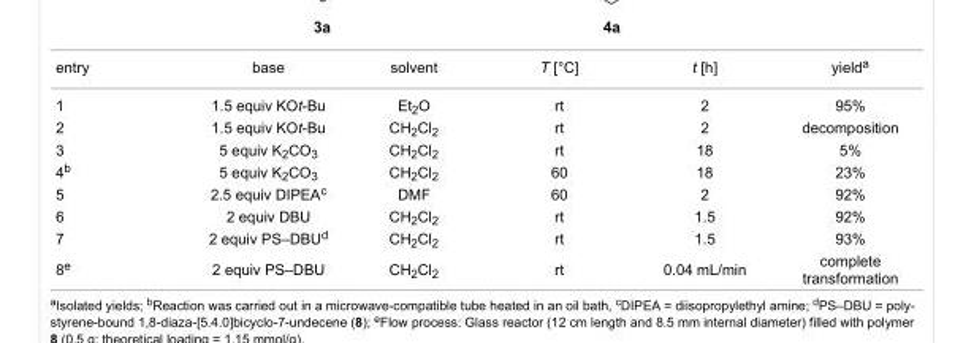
<table><tbody><tr><td>entry</td><td>base</td><td>solvent</td><td>T [°C]</td><td>t [h]</td><td>yield<sup>a</sup></td></tr><tr><td>1</td><td>1.5 equiv KOt-Bu</td><td>Et<sub>2</sub>O</td><td>rt</td><td>2</td><td>95%</td></tr><tr><td>2</td><td>1.5 equiv KOt-Bu</td><td>CH<sub>2</sub>Cl<sub>2</sub></td><td>rt</td><td>2</td><td>decomposition</td></tr><tr><td>3</td><td>5 equiv K<sub>2</sub>CO<sub>3</sub></td><td>CH<sub>2</sub>Cl<sub>2</sub></td><td>rt</td><td>18</td><td>5%</td></tr><tr><td>4<sup>b</sup></td><td>5 equiv K<sub>2</sub>CO<sub>3</sub></td><td>CH<sub>2</sub>Cl<sub>2</sub></td><td>60</td><td>18</td><td>23%</td></tr><tr><td>5</td><td>2.5 equiv DIPEA<sup>c</sup></td><td>DMF</td><td>60</td><td>2</td><td>92%</td></tr><tr><td>6</td><td>2 equiv DBU</td><td>CH<sub>2</sub>Cl<sub>2</sub></td><td>rt</td><td>1.5</td><td>92%</td></tr><tr><td>7</td><td>2 equiv PS–DBU<sup>d</sup></td><td>CH<sub>2</sub>Cl<sub>2</sub></td><td>rt</td><td>1.5</td><td>93%</td></tr><tr><td>8<sup>e</sup></td><td>2 equiv PS–DBU</td><td>CH<sub>2</sub>Cl<sub>2</sub></td><td>rt</td><td>0.04 mL/min</td><td>complete transformation</td></tr></tbody></table>